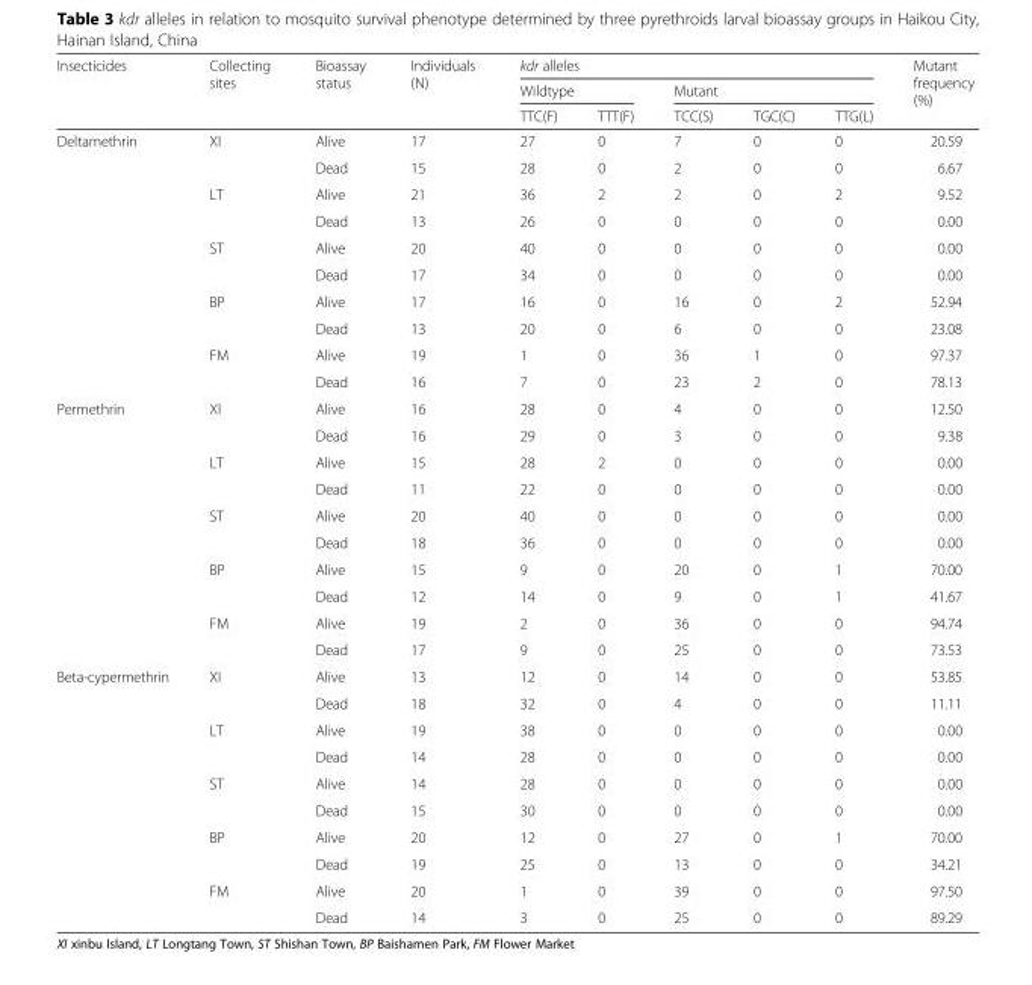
<table><thead><tr><td rowspan="3">Insecticides</td><td rowspan="3">Collecting sites</td><td rowspan="3">Bioassay status</td><td rowspan="3">Individuals (N)</td><td colspan="5">kdr alleles</td><td rowspan="3">Mutant frequency (%)</td></tr><tr><td colspan="2">Wildtype</td><td colspan="3">Mutant</td></tr><tr><td>TTC(F)</td><td>TTT(F)</td><td>TCC(S)</td><td>TGC(C)</td><td>TTG(L)</td></tr></thead><tbody><tr><td rowspan="10">Deltamethrin</td><td>XI</td><td>Alive</td><td>17</td><td>27</td><td>0</td><td>7</td><td>0</td><td>0</td><td>20.59</td></tr><tr><td></td><td>Dead</td><td>15</td><td>28</td><td>0</td><td>2</td><td>0</td><td>0</td><td>6.67</td></tr><tr><td>LT</td><td>Alive</td><td>21</td><td>36</td><td>2</td><td>2</td><td>0</td><td>2</td><td>9.52</td></tr><tr><td></td><td>Dead</td><td>13</td><td>26</td><td>0</td><td>0</td><td>0</td><td>0</td><td>0.00</td></tr><tr><td>ST</td><td>Alive</td><td>20</td><td>40</td><td>0</td><td>0</td><td>0</td><td>0</td><td>0.00</td></tr><tr><td></td><td>Dead</td><td>17</td><td>34</td><td>0</td><td>0</td><td>0</td><td>0</td><td>0.00</td></tr><tr><td>BP</td><td>Alive</td><td>17</td><td>16</td><td>0</td><td>16</td><td>0</td><td>2</td><td>52.94</td></tr><tr><td></td><td>Dead</td><td>13</td><td>20</td><td>0</td><td>6</td><td>0</td><td>0</td><td>23.08</td></tr><tr><td>FM</td><td>Alive</td><td>19</td><td>1</td><td>0</td><td>36</td><td>1</td><td>0</td><td>97.37</td></tr><tr><td></td><td>Dead</td><td>16</td><td>7</td><td>0</td><td>23</td><td>2</td><td>0</td><td>78.13</td></tr><tr><td rowspan="10">Permethrin</td><td>XI</td><td>Alive</td><td>16</td><td>28</td><td>0</td><td>4</td><td>0</td><td>0</td><td>12.50</td></tr><tr><td></td><td>Dead</td><td>16</td><td>29</td><td>0</td><td>3</td><td>0</td><td>0</td><td>9.38</td></tr><tr><td>LT</td><td>Alive</td><td>15</td><td>28</td><td>2</td><td>0</td><td>0</td><td>0</td><td>0.00</td></tr><tr><td></td><td>Dead</td><td>11</td><td>22</td><td>0</td><td>0</td><td>0</td><td>0</td><td>0.00</td></tr><tr><td>ST</td><td>Alive</td><td>20</td><td>40</td><td>0</td><td>0</td><td>0</td><td>0</td><td>0.00</td></tr><tr><td></td><td>Dead</td><td>18</td><td>36</td><td>0</td><td>0</td><td>0</td><td>0</td><td>0.00</td></tr><tr><td>BP</td><td>Alive</td><td>15</td><td>9</td><td>0</td><td>20</td><td>0</td><td>1</td><td>70.00</td></tr><tr><td></td><td>Dead</td><td>12</td><td>14</td><td>0</td><td>9</td><td>0</td><td>1</td><td>41.67</td></tr><tr><td>FM</td><td>Alive</td><td>19</td><td>2</td><td>0</td><td>36</td><td>0</td><td>0</td><td>94.74</td></tr><tr><td></td><td>Dead</td><td>17</td><td>9</td><td>0</td><td>25</td><td>0</td><td>0</td><td>73.53</td></tr><tr><td rowspan="10">Beta-cypermethrin</td><td>XI</td><td>Alive</td><td>13</td><td>12</td><td>0</td><td>14</td><td>0</td><td>0</td><td>53.85</td></tr><tr><td></td><td>Dead</td><td>18</td><td>32</td><td>0</td><td>4</td><td>0</td><td>0</td><td>11.11</td></tr><tr><td>LT</td><td>Alive</td><td>19</td><td>38</td><td>0</td><td>0</td><td>0</td><td>0</td><td>0.00</td></tr><tr><td></td><td>Dead</td><td>14</td><td>28</td><td>0</td><td>0</td><td>0</td><td>0</td><td>0.00</td></tr><tr><td>ST</td><td>Alive</td><td>14</td><td>28</td><td>0</td><td>0</td><td>0</td><td>0</td><td>0.00</td></tr><tr><td></td><td>Dead</td><td>15</td><td>30</td><td>0</td><td>0</td><td>0</td><td>0</td><td>0.00</td></tr><tr><td>BP</td><td>Alive</td><td>20</td><td>12</td><td>0</td><td>27</td><td>0</td><td>1</td><td>70.00</td></tr><tr><td></td><td>Dead</td><td>19</td><td>25</td><td>0</td><td>13</td><td>0</td><td>0</td><td>34.21</td></tr><tr><td>FM</td><td>Alive</td><td>20</td><td>1</td><td>0</td><td>39</td><td>0</td><td>0</td><td>97.50</td></tr><tr><td></td><td>Dead</td><td>14</td><td>3</td><td>0</td><td>25</td><td>0</td><td>0</td><td>89.29</td></tr></tbody></table>